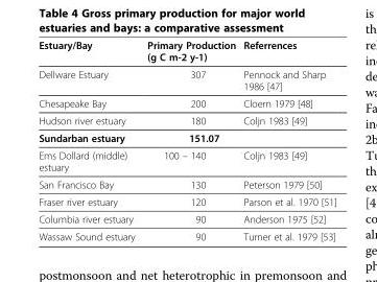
<table><thead><tr><td>Estuary/Bay</td><td>Primary Production (g C m-2 y-1)</td><td>Referrences</td></tr></thead><tbody><tr><td>Dellware Estuary</td><td>307</td><td>Pennock and Sharp 1986 [47]</td></tr><tr><td>Chesapeake Bay</td><td>200</td><td>Cloern 1979 [48]</td></tr><tr><td>Hudson river estuary</td><td>180</td><td>Coljn 1983 [49]</td></tr><tr><td>Sundarban estuary</td><td>151.07</td><td></td></tr><tr><td>Ems Dollard (middle) estuary</td><td>100 – 140</td><td>Coljn 1983 [49]</td></tr><tr><td>San Francisco Bay</td><td>130</td><td>Peterson 1979 [50]</td></tr><tr><td>Fraser river estuary</td><td>120</td><td>Parson et al. 1970 [51]</td></tr><tr><td>Columbia river estuary</td><td>90</td><td>Anderson 1975 [52]</td></tr><tr><td>Wassaw Sound estuary</td><td>90</td><td>Turner et al. 1979 [53]</td></tr></tbody></table>